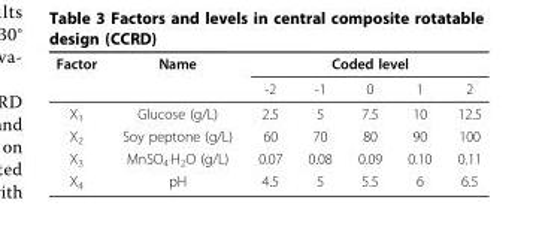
<table><tbody><tr><td rowspan="2">Factor</td><td>Name</td><td colspan="5">Coded level</td></tr><tr><td></td><td>-2</td><td>-1</td><td>0</td><td>1</td><td>2</td></tr><tr><td>X<sub>1</sub></td><td>Glucose (g/L)</td><td>2.5</td><td>5</td><td>7.5</td><td>10</td><td>12.5</td></tr><tr><td>X<sub>2</sub></td><td>Soy peptone (g/L)</td><td>60</td><td>70</td><td>80</td><td>90</td><td>100</td></tr><tr><td>X<sub>3</sub></td><td>MnSO<sub>4</sub>·H<sub>2</sub>O (g/L)</td><td>0.07</td><td>0.08</td><td>0.09</td><td>0.10</td><td>0.11</td></tr><tr><td>X<sub>4</sub></td><td>pH</td><td>4.5</td><td>5</td><td>5.5</td><td>6</td><td>6.5</td></tr></tbody></table>